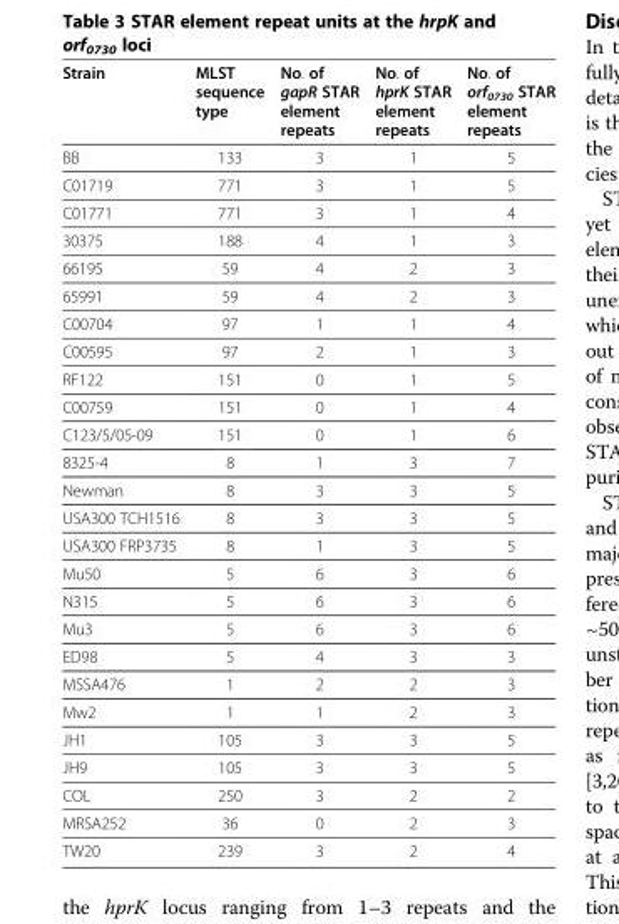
<table><thead><tr><td>Strain</td><td>MLST sequence type</td><td>No. of gapR STAR element repeats</td><td>No. of hprK STAR element repeats</td><td>No. of orf<sub>0730</sub> STAR element repeats</td></tr></thead><tbody><tr><td>BB</td><td>133</td><td>3</td><td>1</td><td>5</td></tr><tr><td>C01719</td><td>771</td><td>3</td><td>1</td><td>5</td></tr><tr><td>C01771</td><td>771</td><td>3</td><td>1</td><td>4</td></tr><tr><td>30375</td><td>188</td><td>4</td><td>1</td><td>3</td></tr><tr><td>66195</td><td>59</td><td>4</td><td>2</td><td>3</td></tr><tr><td>65991</td><td>59</td><td>4</td><td>2</td><td>3</td></tr><tr><td>C00704</td><td>97</td><td>1</td><td>1</td><td>4</td></tr><tr><td>C00595</td><td>97</td><td>2</td><td>1</td><td>3</td></tr><tr><td>RF122</td><td>151</td><td>0</td><td>1</td><td>5</td></tr><tr><td>C00759</td><td>151</td><td>0</td><td>1</td><td>4</td></tr><tr><td>C123/5/05-09</td><td>151</td><td>0</td><td>1</td><td>6</td></tr><tr><td>8325-4</td><td>8</td><td>1</td><td>3</td><td>7</td></tr><tr><td>Newman</td><td>8</td><td>3</td><td>3</td><td>5</td></tr><tr><td>USA300 TCH1516</td><td>8</td><td>3</td><td>3</td><td>5</td></tr><tr><td>USA300 FRP3735</td><td>8</td><td>1</td><td>3</td><td>5</td></tr><tr><td>Mu50</td><td>5</td><td>6</td><td>3</td><td>6</td></tr><tr><td>N315</td><td>5</td><td>6</td><td>3</td><td>6</td></tr><tr><td>Mu3</td><td>5</td><td>6</td><td>3</td><td>6</td></tr><tr><td>ED98</td><td>5</td><td>4</td><td>3</td><td>3</td></tr><tr><td>MSSA476</td><td>1</td><td>2</td><td>2</td><td>3</td></tr><tr><td>Mw2</td><td>1</td><td>1</td><td>2</td><td>3</td></tr><tr><td>JH1</td><td>105</td><td>3</td><td>3</td><td>5</td></tr><tr><td>JH9</td><td>105</td><td>3</td><td>3</td><td>5</td></tr><tr><td>COL</td><td>250</td><td>3</td><td>2</td><td>2</td></tr><tr><td>MRSA252</td><td>36</td><td>0</td><td>2</td><td>3</td></tr><tr><td>TW20</td><td>239</td><td>3</td><td>2</td><td>4</td></tr></tbody></table>